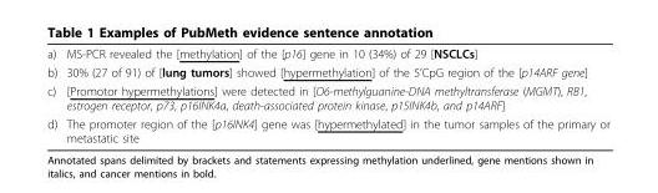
<table><tbody><tr><td>a)</td><td>MS-PCR revealed the [methylation] of the [p16] gene in 10 (34%) of 29 [NSCLCs]</td></tr><tr><td>b)</td><td>30% (27 of 91) of [lung tumors] showed [hypermethylation] of the 5’CpG region of the [p14ARF gene]</td></tr><tr><td>c)</td><td>[Promotor hypermethylations] were detected in [O6-methylguanine-DNA methyltransferase (MGMT), RB1, estrogen receptor, p73, p16INK4a, death-associated protein kinase, p15INK4b, and p14ARF]</td></tr><tr><td>d)</td><td>The promoter region of the [p16INK4] gene was [hypermethylated] in the tumor samples of the primary or metastatic site</td></tr></tbody></table>